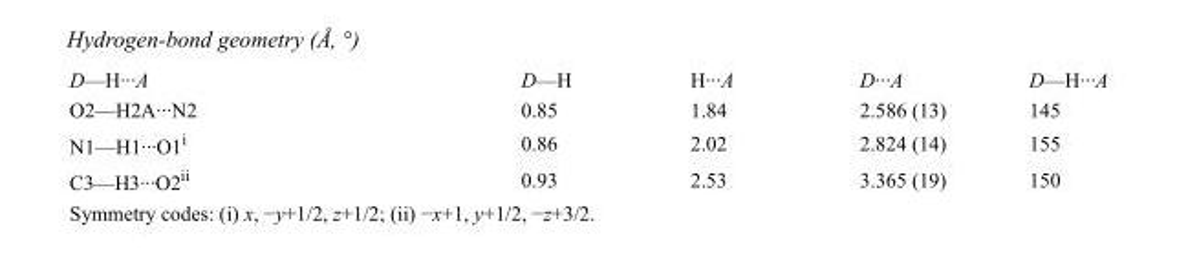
<table><tbody><tr><td>D—H···A</td><td>D—H</td><td>H···A</td><td>D···A</td><td>D—H···A</td></tr><tr><td>O2—H2A···N2</td><td>0.85</td><td>1.84</td><td>2.586 (13)</td><td>145</td></tr><tr><td>N1—H1···O1<sup>i</sup></td><td>0.86</td><td>2.02</td><td>2.824 (14)</td><td>155</td></tr><tr><td>C3—H3···O2<sup>ii</sup></td><td>0.93</td><td>2.53</td><td>3.365 (19)</td><td>150</td></tr></tbody></table>